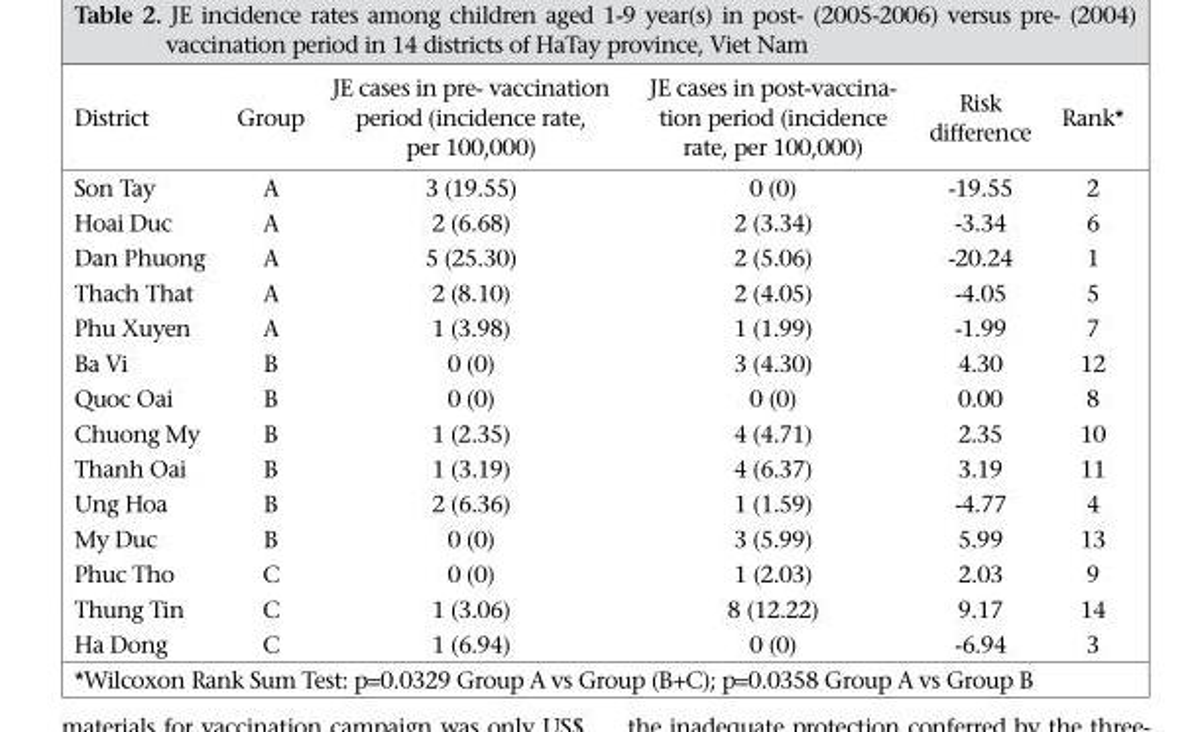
<table><thead><tr><td>District</td><td>Group</td><td>JE cases in pre- vaccination period (incidence rate, per 100,000)</td><td>JE cases in post-vaccina- tion period (incidence rate, per 100,000)</td><td>Risk difference</td><td>Rank*</td></tr></thead><tbody><tr><td>Son Tay</td><td>A</td><td>3 (19.55)</td><td>0 (0)</td><td>-19.55</td><td>2</td></tr><tr><td>Hoai Duc</td><td>A</td><td>2 (6.68)</td><td>2 (3.34)</td><td>-3.34</td><td>6</td></tr><tr><td>Dan Phuong</td><td>A</td><td>5 (25.30)</td><td>2 (5.06)</td><td>-20.24</td><td>1</td></tr><tr><td>Thach That</td><td>A</td><td>2 (8.10)</td><td>2 (4.05)</td><td>-4.05</td><td>5</td></tr><tr><td>Phu Xuyen</td><td>A</td><td>1 (3.98)</td><td>1 (1.99)</td><td>-1.99</td><td>7</td></tr><tr><td>Ba Vi</td><td>B</td><td>0 (0)</td><td>3 (4.30)</td><td>4.30</td><td>12</td></tr><tr><td>Quoc Oai</td><td>B</td><td>0 (0)</td><td>0 (0)</td><td>0.00</td><td>8</td></tr><tr><td>Chuong My</td><td>B</td><td>1 (2.35)</td><td>4 (4.71)</td><td>2.35</td><td>10</td></tr><tr><td>Thanh Oai</td><td>B</td><td>1 (3.19)</td><td>4 (6.37)</td><td>3.19</td><td>11</td></tr><tr><td>Ung Hoa</td><td>B</td><td>2 (6.36)</td><td>1 (1.59)</td><td>-4.77</td><td>4</td></tr><tr><td>My Duc</td><td>B</td><td>0 (0)</td><td>3 (5.99)</td><td>5.99</td><td>13</td></tr><tr><td>Phuc Tho</td><td>C</td><td>0 (0)</td><td>1 (2.03)</td><td>2.03</td><td>9</td></tr><tr><td>Thung Tin</td><td>C</td><td>1 (3.06)</td><td>8 (12.22)</td><td>9.17</td><td>14</td></tr><tr><td>Ha Dong</td><td>C</td><td>1 (6.94)</td><td>0 (0)</td><td>-6.94</td><td>3</td></tr></tbody></table>